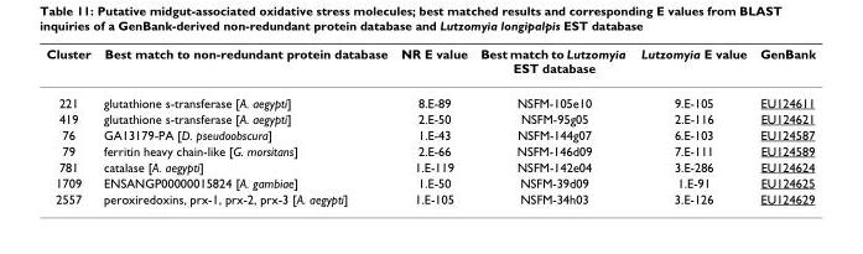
<table><thead><tr><td>Cluster</td><td>Best match to non-redundant protein database</td><td>NR E value</td><td>Best match to Lutzomyia EST database</td><td>Lutzomyia E value</td><td>GenBank</td></tr></thead><tbody><tr><td>221</td><td>glutathione s-transferase [A. aegypti]</td><td>8.E-89</td><td>NSFM-105e10</td><td>9.E-105</td><td>EU124611</td></tr><tr><td>419</td><td>glutathione s-transferase [A. aegypti]</td><td>2.E-50</td><td>NSFM-95g05</td><td>2.E-116</td><td>EU124621</td></tr><tr><td>76</td><td>GA13179-PA [D. pseudoobscura]</td><td>1.E-43</td><td>NSFM-144g07</td><td>6.E-103</td><td>EU124587</td></tr><tr><td>79</td><td>ferritin heavy chain-like [G. morsitans]</td><td>2.E-66</td><td>NSFM-146d09</td><td>7.E-111</td><td>EU124589</td></tr><tr><td>781</td><td>catalase [A. aegypti]</td><td>1.E-119</td><td>NSFM-142e04</td><td>3.E-286</td><td>EU124624</td></tr><tr><td>1709</td><td>ENSANGP00000015824 [A. gambiae]</td><td>1.E-50</td><td>NSFM-39d09</td><td>1.E-91</td><td>EU124625</td></tr><tr><td>2557</td><td>peroxiredoxins, prx-1, prx-2, prx-3 [A. aegypti]</td><td>1.E-105</td><td>NSFM-34h03</td><td>3.E-126</td><td>EU124629</td></tr></tbody></table>